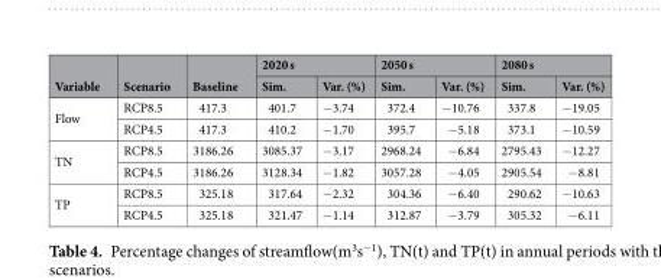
<table><thead><tr><td rowspan="2">Variable</td><td rowspan="2">Scenario</td><td rowspan="2">Baseline</td><td colspan="2">2020 s</td><td colspan="2">2050 s</td><td colspan="2">2080 s</td></tr><tr><td>Sim.</td><td>Var. (%)</td><td>Sim.</td><td>Var. (%)</td><td>Sim.</td><td>Var. (%)</td></tr></thead><tbody><tr><td rowspan="2">Flow</td><td>RCP8.5</td><td>417.3</td><td>401.7</td><td>−3.74</td><td>372.4</td><td>−10.76</td><td>337.8</td><td>−19.05</td></tr><tr><td>RCP4.5</td><td>417.3</td><td>410.2</td><td>−1.70</td><td>395.7</td><td>−5.18</td><td>373.1</td><td>−10.59</td></tr><tr><td rowspan="2">TN</td><td>RCP8.5</td><td>3186.26</td><td>3085.37</td><td>−3.17</td><td>2968.24</td><td>−6.84</td><td>2795.43</td><td>−12.27</td></tr><tr><td>RCP4.5</td><td>3186.26</td><td>3128.34</td><td>−1.82</td><td>3057.28</td><td>−4.05</td><td>2905.54</td><td>−8.81</td></tr><tr><td rowspan="2">TP</td><td>RCP8.5</td><td>325.18</td><td>317.64</td><td>−2.32</td><td>304.36</td><td>−6.40</td><td>290.62</td><td>−10.63</td></tr><tr><td>RCP4.5</td><td>325.18</td><td>321.47</td><td>−1.14</td><td>312.87</td><td>−3.79</td><td>305.32</td><td>−6.11</td></tr></tbody></table>